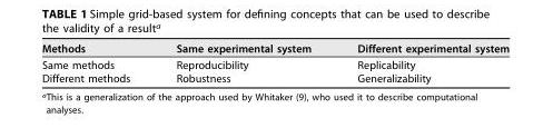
<table><thead><tr><td>Methods</td><td>Same experimental system</td><td>Different experimental system</td></tr></thead><tbody><tr><td>Same methods</td><td>Reproducibility</td><td>Replicability</td></tr><tr><td>Different methods</td><td>Robustness</td><td>Generalizability</td></tr></tbody></table>